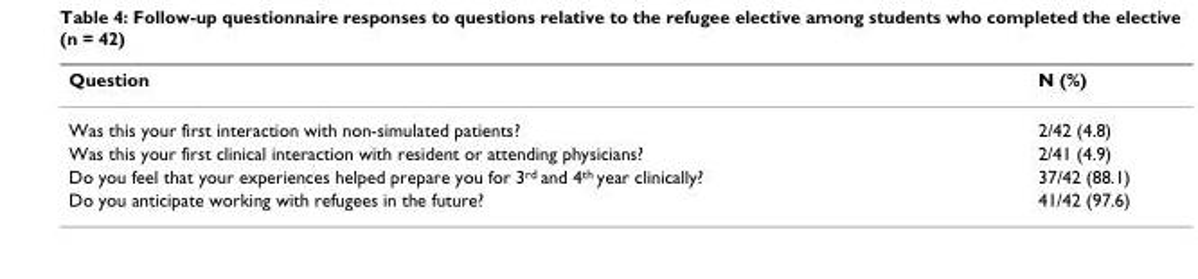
<table><thead><tr><td>Question</td><td>N (%)</td></tr></thead><tbody><tr><td>Was this your first interaction with non-simulated patients?</td><td>2/42 (4.8)</td></tr><tr><td>Was this your first clinical interaction with resident or attending physicians?</td><td>2/41 (4.9)</td></tr><tr><td>Do you feel that your experiences helped prepare you for 3<sup>rd</sup> and 4<sup>th</sup> year clinically?</td><td>37/42 (88.1)</td></tr><tr><td>Do you anticipate working with refugees in the future?</td><td>41/42 (97.6)</td></tr></tbody></table>